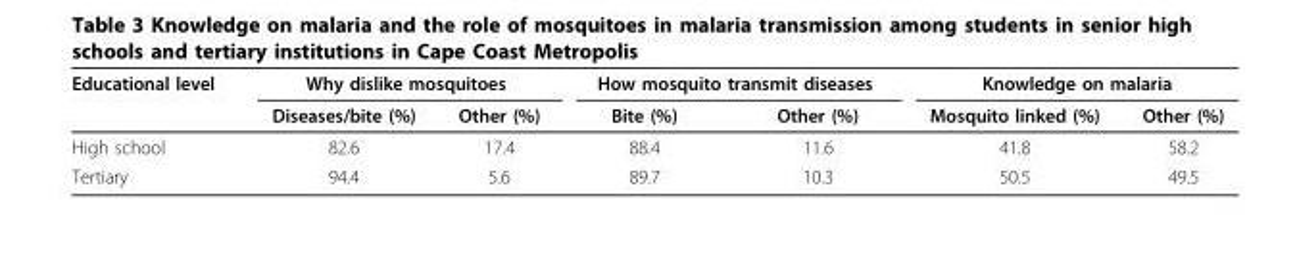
<table><thead><tr><td rowspan="2">Educational level</td><td colspan="2">Why dislike mosquitoes</td><td colspan="2">How mosquito transmit diseases</td><td colspan="2">Knowledge on malaria</td></tr><tr><td>Diseases/bite (%)</td><td>Other (%)</td><td>Bite (%)</td><td>Other (%)</td><td>Mosquito linked (%)</td><td>Other (%)</td></tr></thead><tbody><tr><td>High school</td><td>82.6</td><td>17.4</td><td>88.4</td><td>11.6</td><td>41.8</td><td>58.2</td></tr><tr><td>Tertiary</td><td>94.4</td><td>5.6</td><td>89.7</td><td>10.3</td><td>50.5</td><td>49.5</td></tr></tbody></table>